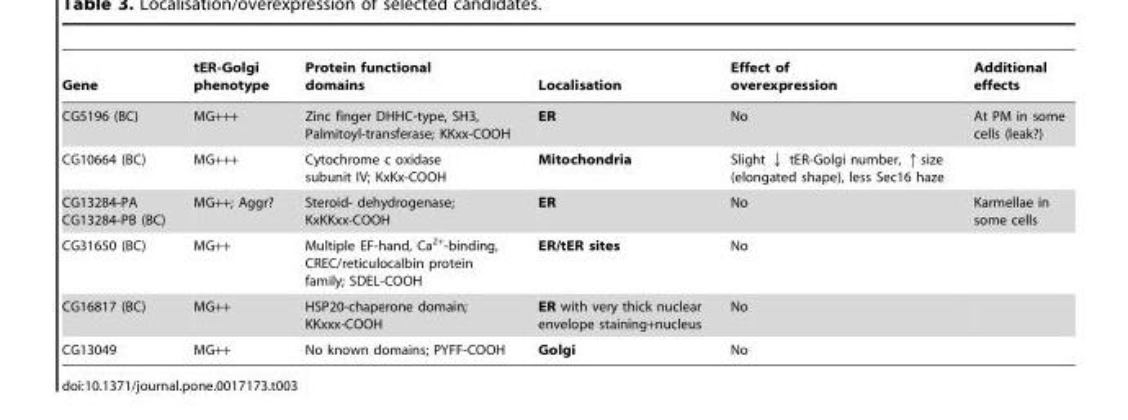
<table><thead><tr><td>Gene</td><td>tER-Golgi phenotype</td><td>Protein functional domains</td><td>Localisation</td><td>Effect of overexpression</td><td>Additional effects</td></tr></thead><tbody><tr><td>CG5196 (BC)</td><td>MG+++</td><td>Zinc finger DHHC-type, SH3, Palmitoyl-transferase; KKxx-COOH</td><td>ER</td><td>No</td><td>At PM in some cells (leak?)</td></tr><tr><td>CG10664 (BC)</td><td>MG+++</td><td>Cytochrome c oxidase subunit IV; KxKx-COOH</td><td>Mitochondria</td><td>Slight ↓ tER-Golgi number, ↑size (elongated shape), less Sec16 haze</td><td></td></tr><tr><td>CG13284-PA CG13284-PB (BC)</td><td>MG++; Aggr?</td><td>Steroid- dehydrogenase; KxKKxx-COOH</td><td>ER</td><td>No</td><td>Karmellae in some cells</td></tr><tr><td>CG31650 (BC)</td><td>MG++</td><td>Multiple EF-hand, Ca<sup>2+</sup>-binding, CREC/reticulocalbin protein family; SDEL-COOH</td><td>ER/tER sites</td><td>No</td><td></td></tr><tr><td>CG16817 (BC)</td><td>MG++</td><td>HSP20-chaperone domain; KKxxx-COOH</td><td>ER with very thick nuclear envelope staining+nucleus</td><td>No</td><td></td></tr><tr><td>CG13049</td><td>MG++</td><td>No known domains; PYFF-COOH</td><td>Golgi</td><td>No</td><td></td></tr></tbody></table>